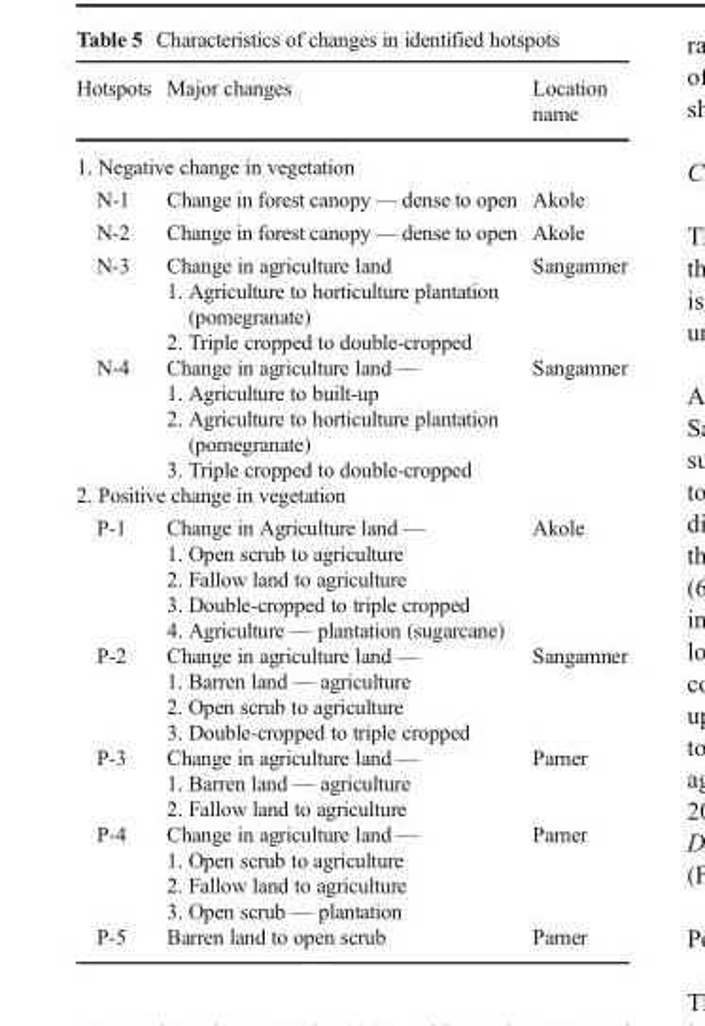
<table><thead><tr><td>Hotspots</td><td>Major changes</td><td>Location name</td></tr></thead><tbody><tr><td colspan="3">1. Negative change in vegetation</td></tr><tr><td>N-1</td><td>Change in forest canopy — dense to open</td><td>Akole</td></tr><tr><td>N-2</td><td>Change in forest canopy — dense to open</td><td>Akole</td></tr><tr><td>N-3</td><td>Change in agriculture land 1. Agriculture to horticulture plantation (pomegranate) 2. Triple cropped to double-cropped</td><td>Sangamner</td></tr><tr><td>N-4</td><td>Change in agriculture land — 1. Agriculture to built-up 2. Agriculture to horticulture plantation (pomegranate) 3. Triple cropped to double-cropped</td><td>Sangamner</td></tr><tr><td colspan="3">2. Positive change in vegetation</td></tr><tr><td>P-1</td><td>Change in Agriculture land — 1. Open scrub to agriculture 2. Fallow land to agriculture 3. Double-cropped to triple cropped 4. Agriculture — plantation (sugarcane)</td><td>Akole</td></tr><tr><td>P-2</td><td>Change in agriculture land — 1. Barren land — agriculture 2. Open scrub to agriculture 3. Double-cropped to triple cropped</td><td>Sangamner</td></tr><tr><td>P-3</td><td>Change in agriculture land — 1. Barren land — agriculture 2. Fallow land to agriculture</td><td>Parner</td></tr><tr><td>P-4</td><td>Change in agriculture land — 1. Open scrub to agriculture 2. Fallow land to agriculture 3. Open scrub — plantation</td><td>Parner</td></tr><tr><td>P-5</td><td>Barren land to open scrub</td><td>Parner</td></tr></tbody></table>